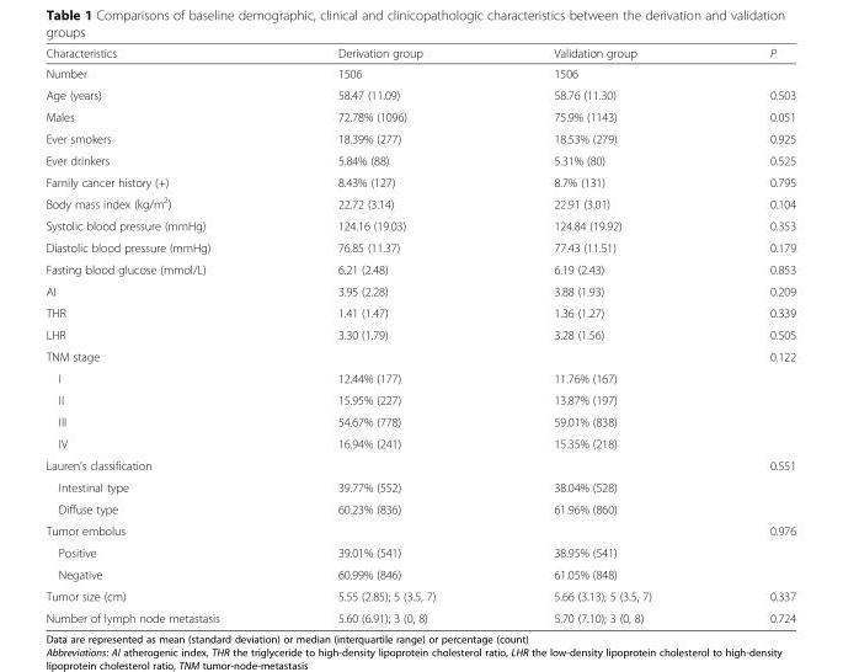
<table><thead><tr><td>Characteristics</td><td>Derivation group</td><td>Validation group</td><td>P</td></tr></thead><tbody><tr><td>Number</td><td>1506</td><td>1506</td><td></td></tr><tr><td>Age (years)</td><td>58.47 (11.09)</td><td>58.76 (11.30)</td><td>0.503</td></tr><tr><td>Males</td><td>72.78% (1096)</td><td>75.9% (1143)</td><td>0.051</td></tr><tr><td>Ever smokers</td><td>18.39% (277)</td><td>18.53% (279)</td><td>0.925</td></tr><tr><td>Ever drinkers</td><td>5.84% (88)</td><td>5.31% (80)</td><td>0.525</td></tr><tr><td>Family cancer history (+)</td><td>8.43% (127)</td><td>8.7% (131)</td><td>0.795</td></tr><tr><td>Body mass index (kg/m<sup>2</sup>)</td><td>22.72 (3.14)</td><td>22.91 (3.01)</td><td>0.104</td></tr><tr><td>Systolic blood pressure (mmHg)</td><td>124.16 (19.03)</td><td>124.84 (19.92)</td><td>0.353</td></tr><tr><td>Diastolic blood pressure (mmHg)</td><td>76.85 (11.37)</td><td>77.43 (11.51)</td><td>0.179</td></tr><tr><td>Fasting blood glucose (mmol/L)</td><td>6.21 (2.48)</td><td>6.19 (2.43)</td><td>0.853</td></tr><tr><td>AI</td><td>3.95 (2.28)</td><td>3.88 (1.93)</td><td>0.209</td></tr><tr><td>THR</td><td>1.41 (1.47)</td><td>1.36 (1.27)</td><td>0.339</td></tr><tr><td>LHR</td><td>3.30 (1.79)</td><td>3.28 (1.56)</td><td>0.505</td></tr><tr><td>TNM stage</td><td></td><td></td><td>0.122</td></tr><tr><td>I</td><td>12.44% (177)</td><td>11.76% (167)</td><td></td></tr><tr><td>II</td><td>15.95% (227)</td><td>13.87% (197)</td><td></td></tr><tr><td>III</td><td>54.67% (778)</td><td>59.01% (838)</td><td></td></tr><tr><td>IV</td><td>16.94% (241)</td><td>15.35% (218)</td><td></td></tr><tr><td>Lauren’s classification</td><td></td><td></td><td>0.551</td></tr><tr><td>Intestinal type</td><td>39.77% (552)</td><td>38.04% (528)</td><td></td></tr><tr><td>Diffuse type</td><td>60.23% (836)</td><td>61.96% (860)</td><td></td></tr><tr><td>Tumor embolus</td><td></td><td></td><td>0.976</td></tr><tr><td>Positive</td><td>39.01% (541)</td><td>38.95% (541)</td><td></td></tr><tr><td>Negative</td><td>60.99% (846)</td><td>61.05% (848)</td><td></td></tr><tr><td>Tumor size (cm)</td><td>5.55 (2.85); 5 (3.5, 7)</td><td>5.66 (3.13); 5 (3.5, 7)</td><td>0.337</td></tr><tr><td>Number of lymph node metastasis</td><td>5.60 (6.91); 3 (0, 8)</td><td>5.70 (7.10); 3 (0, 8)</td><td>0.724</td></tr></tbody></table>